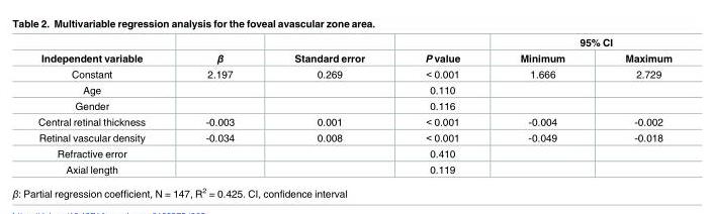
<table><thead><tr><td rowspan="2">Independent variable</td><td rowspan="2">β</td><td rowspan="2">Standard error</td><td rowspan="2">P value</td><td colspan="2">95% CI</td></tr><tr><td>Minimum</td><td>Maximum</td></tr></thead><tbody><tr><td>Constant</td><td>2.197</td><td>0.269</td><td>&lt; 0.001</td><td>1.666</td><td>2.729</td></tr><tr><td>Age</td><td></td><td></td><td>0.110</td><td></td><td></td></tr><tr><td>Gender</td><td></td><td></td><td>0.116</td><td></td><td></td></tr><tr><td>Central retinal thickness</td><td>-0.003</td><td>0.001</td><td>&lt; 0.001</td><td>-0.004</td><td>-0.002</td></tr><tr><td>Retinal vascular density</td><td>-0.034</td><td>0.008</td><td>&lt; 0.001</td><td>-0.049</td><td>-0.018</td></tr><tr><td>Refractive error</td><td></td><td></td><td>0.410</td><td></td><td></td></tr><tr><td>Axial length</td><td></td><td></td><td>0.119</td><td></td><td></td></tr></tbody></table>